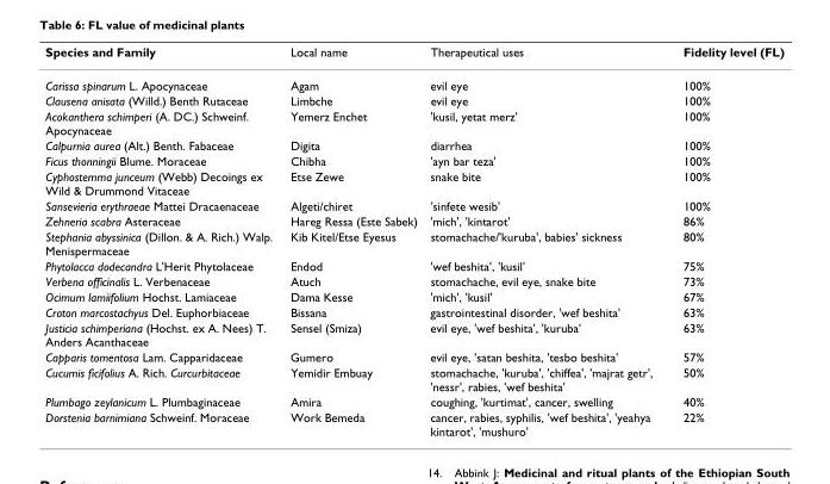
<table><thead><tr><td>Species and Family</td><td>Local name</td><td>Therapeutical uses</td><td>Fidelity level (FL)</td></tr></thead><tbody><tr><td>Carissa spinarum L. Apocynaceae</td><td>Agam</td><td>evil eye</td><td>100%</td></tr><tr><td>Clausena anisata (Willd.) Benth Rutaceae</td><td>Limbche</td><td>evil eye</td><td>100%</td></tr><tr><td>Acokanthera schimperi (A. DC.) Schweinf. Apocynaceae</td><td>Yemerz Enchet</td><td>&#x27;kusil, yetat merz&#x27;</td><td>100%</td></tr><tr><td>Calpurnia aurea (Alt.) Benth. Fabaceae</td><td>Digita</td><td>diarrhea</td><td>100%</td></tr><tr><td>Ficus thonningii Blume. Moraceae</td><td>Chibha</td><td>&#x27;ayn bar teza&#x27;</td><td>100%</td></tr><tr><td>Cyphostemma junceum (Webb) Decoings ex Wild &amp; Drummond Vitaceae</td><td>Etse Zewe</td><td>snake bite</td><td>100%</td></tr><tr><td>Sansevieria erythraeae Mattei Dracaenaceae</td><td>Algeti/chiret</td><td>&#x27;sinfete wesib&#x27;</td><td>100%</td></tr><tr><td>Zehneria scabra Asteraceae</td><td>Hareg Ressa (Este Sabek)</td><td>&#x27;mich&#x27;, &#x27;kintarot&#x27;</td><td>86%</td></tr><tr><td>Stephania abyssinica (Dillon. &amp; A. Rich.) Walp. Menispermaceae</td><td>Kib Kitel/Etse Eyesus</td><td>stomachache/&#x27;kuruba&#x27;, babies&#x27; sickness</td><td>80%</td></tr><tr><td>Phytolacca dodecandra L&#x27;Herit Phytolaceae</td><td>Endod</td><td>&#x27;wef beshita&#x27;, &#x27;kusil&#x27;</td><td>75%</td></tr><tr><td>Verbena officinalis L. Verbenaceae</td><td>Atuch</td><td>stomachache, evil eye, snake bite</td><td>73%</td></tr><tr><td>Ocimum lamiifolium Hochst. Lamiaceae</td><td>Dama Kesse</td><td>&#x27;mich&#x27;, &#x27;kusil&#x27;</td><td>67%</td></tr><tr><td>Croton marcostachyus Del. Euphorbiaceae</td><td>Bissana</td><td>gastrointestinal disorder, &#x27;wef beshita&#x27;</td><td>63%</td></tr><tr><td>Justicia schimperiana (Hochst. ex A. Nees) T. Anders Acanthaceae</td><td>Sensel (Smiza)</td><td>evil eye, &#x27;wef beshita&#x27;, &#x27;kuruba&#x27;</td><td>63%</td></tr><tr><td>Capparis tomentosa Lam. Capparidaceae</td><td>Gumero</td><td>evil eye, &#x27;satan beshita, &#x27;tesbo beshita&#x27;</td><td>57%</td></tr><tr><td>Cucumis ficifolius A. Rich. Curcurbitaceae</td><td>Yemidir Embuay</td><td>stomachache, &#x27;kuruba&#x27;, &#x27;chiffea&#x27;, &#x27;majrat getr&#x27;, &#x27;nessr&#x27;, rabies, &#x27;wef beshita&#x27;</td><td>50%</td></tr><tr><td>Plumbago zeylanicum L. Plumbaginaceae</td><td>Amira</td><td>coughing, &#x27;kurtimat&#x27;, cancer, swelling</td><td>40%</td></tr><tr><td>Dorstenia barnimiana Schweinf. Moraceae</td><td>Work Bemeda</td><td>cancer, rabies, syphilis, &#x27;wef beshita&#x27;, &#x27;yeahya kintarot&#x27;, &#x27;mushuro&#x27;</td><td>22%</td></tr></tbody></table>